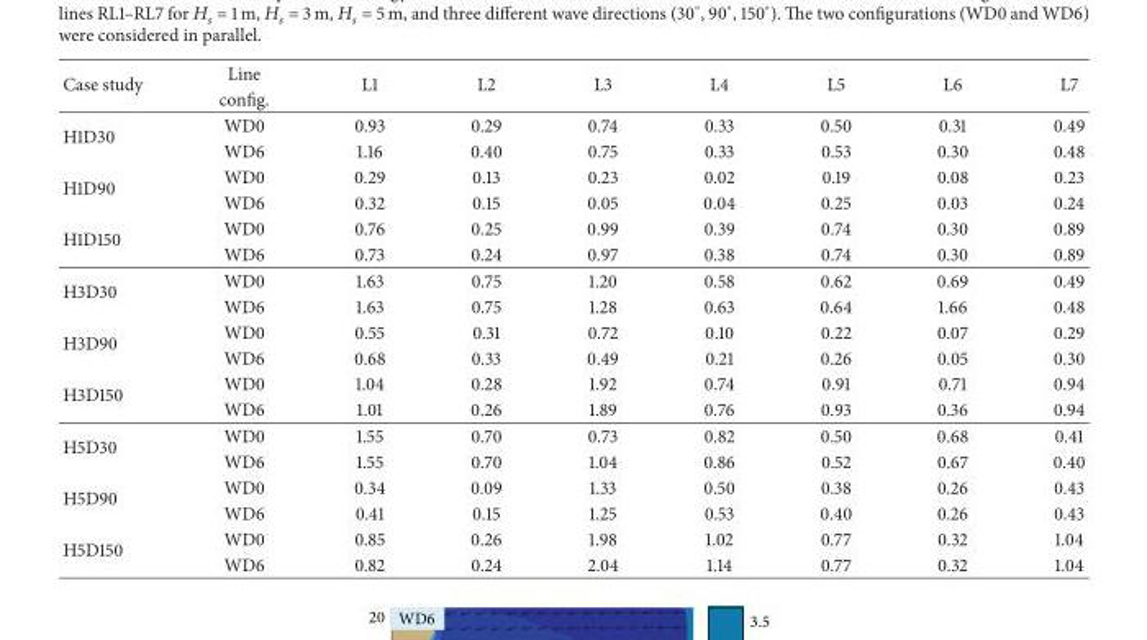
<table><thead><tr><td rowspan="2">Case study</td><td rowspan="2">Line config.</td><td rowspan="2">L1</td><td rowspan="2">L2</td><td rowspan="2">L3</td><td rowspan="2">L4</td><td rowspan="2">L5</td><td rowspan="2">L6</td><td rowspan="2">L7</td></tr><tr></tr></thead><tbody><tr><td rowspan="2">H1D30</td><td>WD0</td><td>0.93</td><td>0.29</td><td>0.74</td><td>0.33</td><td>0.50</td><td>0.31</td><td>0.49</td></tr><tr><td>WD6</td><td>1.16</td><td>0.40</td><td>0.75</td><td>0.33</td><td>0.53</td><td>0.30</td><td>0.48</td></tr><tr><td rowspan="2">H1D90</td><td>WD0</td><td>0.29</td><td>0.13</td><td>0.23</td><td>0.02</td><td>0.19</td><td>0.08</td><td>0.23</td></tr><tr><td>WD6</td><td>0.32</td><td>0.15</td><td>0.05</td><td>0.04</td><td>0.25</td><td>0.03</td><td>0.24</td></tr><tr><td rowspan="2">H1D150</td><td>WD0</td><td>0.76</td><td>0.25</td><td>0.99</td><td>0.39</td><td>0.74</td><td>0.30</td><td>0.89</td></tr><tr><td>WD6</td><td>0.73</td><td>0.24</td><td>0.97</td><td>0.38</td><td>0.74</td><td>0.30</td><td>0.89</td></tr><tr><td rowspan="2">H3D30</td><td>WD0</td><td>1.63</td><td>0.75</td><td>1.20</td><td>0.58</td><td>0.62</td><td>0.69</td><td>0.49</td></tr><tr><td>WD6</td><td>1.63</td><td>0.75</td><td>1.28</td><td>0.63</td><td>0.64</td><td>1.66</td><td>0.48</td></tr><tr><td rowspan="2">H3D90</td><td>WD0</td><td>0.55</td><td>0.31</td><td>0.72</td><td>0.10</td><td>0.22</td><td>0.07</td><td>0.29</td></tr><tr><td>WD6</td><td>0.68</td><td>0.33</td><td>0.49</td><td>0.21</td><td>0.26</td><td>0.05</td><td>0.30</td></tr><tr><td rowspan="2">H3D150</td><td>WD0</td><td>1.04</td><td>0.28</td><td>1.92</td><td>0.74</td><td>0.91</td><td>0.71</td><td>0.94</td></tr><tr><td>WD6</td><td>1.01</td><td>0.26</td><td>1.89</td><td>0.76</td><td>0.93</td><td>0.36</td><td>0.94</td></tr><tr><td rowspan="2">H5D30</td><td>WD0</td><td>1.55</td><td>0.70</td><td>0.73</td><td>0.82</td><td>0.50</td><td>0.68</td><td>0.41</td></tr><tr><td>WD6</td><td>1.55</td><td>0.70</td><td>1.04</td><td>0.86</td><td>0.52</td><td>0.67</td><td>0.40</td></tr><tr><td rowspan="2">H5D90</td><td>WD0</td><td>0.34</td><td>0.09</td><td>1.33</td><td>0.50</td><td>0.38</td><td>0.26</td><td>0.43</td></tr><tr><td>WD6</td><td>0.41</td><td>0.15</td><td>1.25</td><td>0.53</td><td>0.40</td><td>0.26</td><td>0.43</td></tr><tr><td rowspan="2">H5D150</td><td>WD0</td><td>0.85</td><td>0.26</td><td>1.98</td><td>1.02</td><td>0.77</td><td>0.32</td><td>1.04</td></tr><tr><td>WD6</td><td>0.82</td><td>0.24</td><td>2.04</td><td>1.14</td><td>0.77</td><td>0.32</td><td>1.04</td></tr></tbody></table>